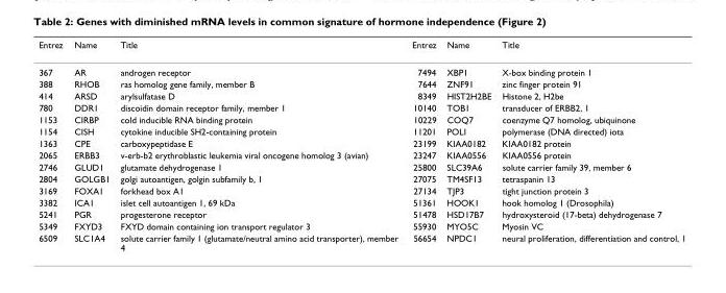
<table><thead><tr><td>Entrez</td><td>Name</td><td>Title</td><td>Entrez</td><td>Name</td><td>Title</td></tr></thead><tbody><tr><td>367</td><td>AR</td><td>androgen receptor</td><td>7494</td><td>XBP1</td><td>X-box binding protein 1</td></tr><tr><td>388</td><td>RHOB</td><td>ras homolog gene family, member B</td><td>7644</td><td>ZNF91</td><td>zinc finger protein 91</td></tr><tr><td>414</td><td>ARSD</td><td>arylsulfatase D</td><td>8349</td><td>HIST2H2BE</td><td>Histone 2, H2be</td></tr><tr><td>780</td><td>DDR1</td><td>discoidin domain receptor family, member 1</td><td>10140</td><td>TOB1</td><td>transducer of ERBB2, 1</td></tr><tr><td>1153</td><td>CIRBP</td><td>cold inducible RNA binding protein</td><td>10229</td><td>COQ7</td><td>coenzyme Q7 homolog, ubiquinone</td></tr><tr><td>1154</td><td>CISH</td><td>cytokine inducible SH2-containing protein</td><td>11201</td><td>POLI</td><td>polymerase (DNA directed) iota</td></tr><tr><td>1363</td><td>CPE</td><td>carboxypeptidase E</td><td>23199</td><td>KIAA0182</td><td>KIAA0182 protein</td></tr><tr><td>2065</td><td>ERBB3</td><td>v-erb-b2 erythroblastic leukemia viral oncogene homolog 3 (avian)</td><td>23247</td><td>KIAA0556</td><td>KIAA0556 protein</td></tr><tr><td>2746</td><td>GLUD1</td><td>glutamate dehydrogenase 1</td><td>25800</td><td>SLC39A6</td><td>solute carrier family 39, member 6</td></tr><tr><td>2804</td><td>GOLGB1</td><td>golgi autoantigen, golgin subfamily b, 1</td><td>27075</td><td>TM4SF13</td><td>tetraspanin 13</td></tr><tr><td>3169</td><td>FOXA1</td><td>forkhead box A1</td><td>27134</td><td>TJP3</td><td>tight junction protein 3</td></tr><tr><td>3382</td><td>ICA1</td><td>islet cell autoantigen 1, 69 kDa</td><td>51361</td><td>HOOK1</td><td>hook homolog 1 (Drosophila)</td></tr><tr><td>5241</td><td>PGR</td><td>progesterone receptor</td><td>51478</td><td>HSD17B7</td><td>hydroxysteroid (17-beta) dehydrogenase 7</td></tr><tr><td>5349</td><td>FXYD3</td><td>FXYD domain containing ion transport regulator 3</td><td>55930</td><td>MYO5C</td><td>Myosin VC</td></tr><tr><td>6509</td><td>SLC1A4</td><td>solute carrier family 1 (glutamate/neutral amino acid transporter), member 4</td><td>56654</td><td>NPDC1</td><td>neural proliferation, differentiation and control, 1</td></tr></tbody></table>